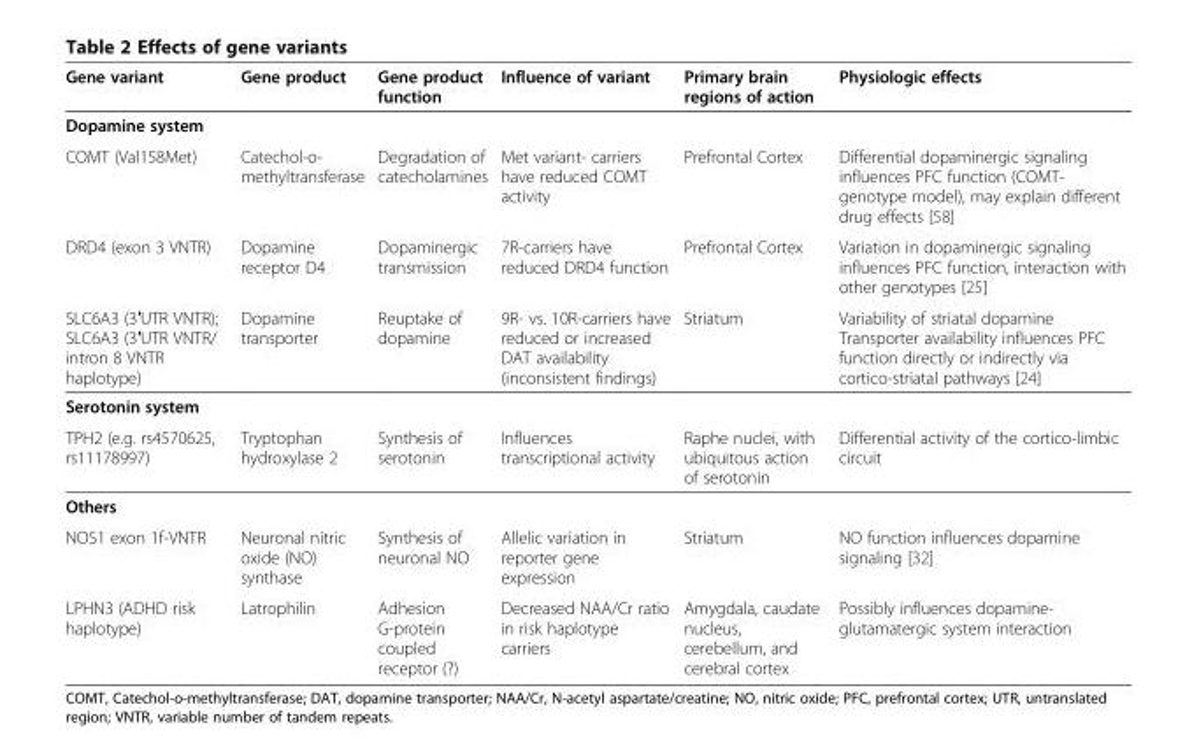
<table><thead><tr><td>Gene variant</td><td>Gene product</td><td>Gene product function</td><td>Influence of variant</td><td>Primary brain regions of action</td><td>Physiologic effects</td></tr></thead><tbody><tr><td colspan="6">Dopamine system</td></tr><tr><td>COMT (Val158Met)</td><td>Catechol-o- methyltransferase</td><td>Degradation of catecholamines</td><td>Met variant- carriers have reduced COMT activity</td><td>Prefrontal Cortex</td><td>Differential dopaminergic signaling influences PFC function (COMT- genotype model), may explain different drug effects [58]</td></tr><tr><td>DRD4 (exon 3 VNTR)</td><td>Dopamine receptor D4</td><td>Dopaminergic transmission</td><td>7R-carriers have reduced DRD4 function</td><td>Prefrontal Cortex</td><td>Variation in dopaminergic signaling influences PFC function, interaction with other genotypes [25]</td></tr><tr><td>SLC6A3 (3′UTR VNTR); SLC6A3 (3′UTR VNTR/ intron 8 VNTR haplotype)</td><td>Dopamine transporter</td><td>Reuptake of dopamine</td><td>9R- vs. 10R-carriers have reduced or increased DAT availability (inconsistent findings)</td><td>Striatum</td><td>Variability of striatal dopamine Transporter availability influences PFC function directly or indirectly via cortico-striatal pathways [24]</td></tr><tr><td colspan="6">Serotonin system</td></tr><tr><td>TPH2 (e.g. rs4570625, rs11178997)</td><td>Tryptophan hydroxylase 2</td><td>Synthesis of serotonin</td><td>Influences transcriptional activity</td><td>Raphe nuclei, with ubiquitous action of serotonin</td><td>Differential activity of the cortico-limbic circuit</td></tr><tr><td colspan="6">Others</td></tr><tr><td>NOS1 exon 1f-VNTR</td><td>Neuronal nitric oxide (NO) synthase</td><td>Synthesis of neuronal NO</td><td>Allelic variation in reporter gene expression</td><td>Striatum</td><td>NO function influences dopamine signaling [32]</td></tr><tr><td>LPHN3 (ADHD risk haplotype)</td><td>Latrophilin</td><td>Adhesion G-protein coupled receptor (?)</td><td>Decreased NAA/Cr ratio in risk haplotype carriers</td><td>Amygdala, caudate nucleus, cerebellum, and cerebral cortex</td><td>Possibly influences dopamine- glutamatergic system interaction</td></tr></tbody></table>